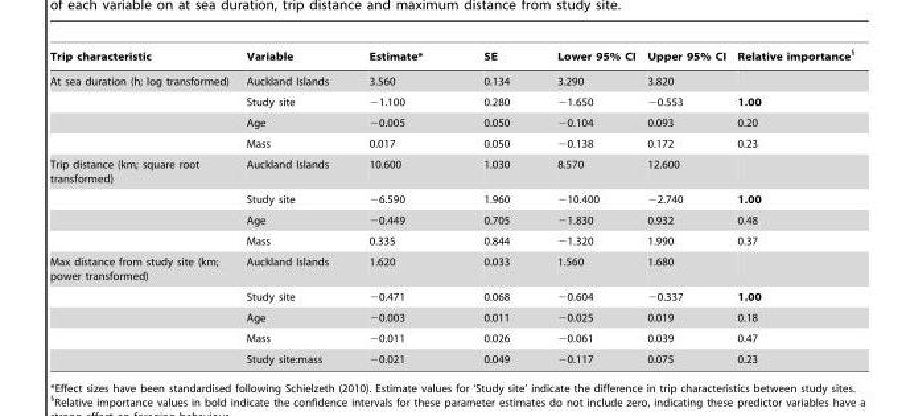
<table><thead><tr><td>Trip characteristic</td><td>Variable</td><td>Estimate*</td><td>SE</td><td>Lower 95% CI</td><td>Upper 95% CI</td><td>Relative importance§</td></tr></thead><tbody><tr><td rowspan="4">At sea duration (h; log transformed)</td><td>Auckland Islands</td><td>3.560</td><td>0.134</td><td>3.290</td><td>3.820</td><td></td></tr><tr><td>Study site</td><td>−1.100</td><td>0.280</td><td>−1.650</td><td>−0.553</td><td>1.00</td></tr><tr><td>Age</td><td>−0.005</td><td>0.050</td><td>−0.104</td><td>0.093</td><td>0.20</td></tr><tr><td>Mass</td><td>0.017</td><td>0.050</td><td>−0.138</td><td>0.172</td><td>0.23</td></tr><tr><td rowspan="4">Trip distance (km; square root transformed)</td><td>Auckland Islands</td><td>10.600</td><td>1.030</td><td>8.570</td><td>12.600</td><td></td></tr><tr><td>Study site</td><td>−6.590</td><td>1.960</td><td>−10.400</td><td>−2.740</td><td>1.00</td></tr><tr><td>Age</td><td>−0.449</td><td>0.705</td><td>−1.830</td><td>0.932</td><td>0.48</td></tr><tr><td>Mass</td><td>0.335</td><td>0.844</td><td>−1.320</td><td>1.990</td><td>0.37</td></tr><tr><td rowspan="5">Max distance from study site (km; power transformed)</td><td>Auckland Islands</td><td>1.620</td><td>0.033</td><td>1.560</td><td>1.680</td><td></td></tr><tr><td>Study site</td><td>−0.471</td><td>0.068</td><td>−0.604</td><td>−0.337</td><td>1.00</td></tr><tr><td>Age</td><td>−0.003</td><td>0.011</td><td>−0.025</td><td>0.019</td><td>0.18</td></tr><tr><td>Mass</td><td>−0.011</td><td>0.026</td><td>−0.061</td><td>0.039</td><td>0.47</td></tr><tr><td>Study site:mass</td><td>−0.021</td><td>0.049</td><td>−0.117</td><td>0.075</td><td>0.23</td></tr></tbody></table>